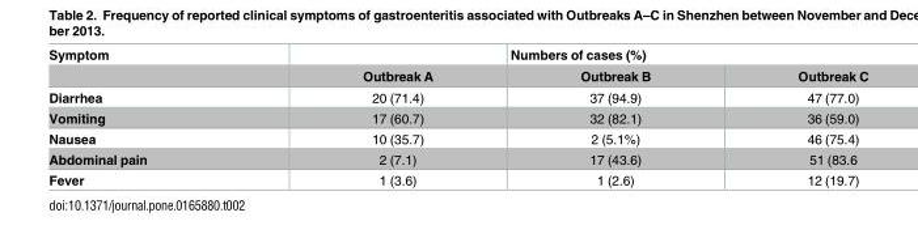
<table><thead><tr><td rowspan="2">Symptom</td><td rowspan="2">Outbreak A</td><td colspan="2">Numbers of cases (%)</td></tr><tr><td>Outbreak B</td><td>Outbreak C</td></tr></thead><tbody><tr><td>Diarrhea</td><td>20 (71.4)</td><td>37 (94.9)</td><td>47 (77.0)</td></tr><tr><td>Vomiting</td><td>17 (60.7)</td><td>32 (82.1)</td><td>36 (59.0)</td></tr><tr><td>Nausea</td><td>10 (35.7)</td><td>2 (5.1%)</td><td>46 (75.4)</td></tr><tr><td>Abdominal pain</td><td>2 (7.1)</td><td>17 (43.6)</td><td>51 (83.6</td></tr><tr><td>Fever</td><td>1 (3.6)</td><td>1 (2.6)</td><td>12 (19.7)</td></tr></tbody></table>